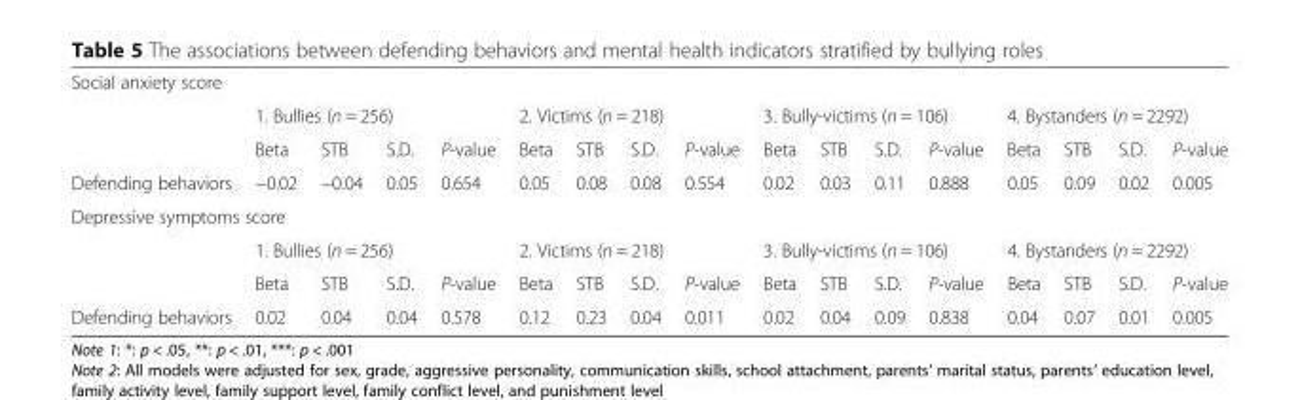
<table><tbody><tr><td colspan="17">Social anxiety score</td></tr><tr><td rowspan="2"></td><td colspan="4">1. Bullies (n = 256)</td><td colspan="4">2. Victims (n = 218)</td><td colspan="4">3. Bully-victims (n = 106)</td><td colspan="4">4. Bystanders (n = 2292)</td></tr><tr><td>Beta</td><td>STB</td><td>S.D.</td><td>P-value</td><td>Beta</td><td>STB</td><td>S.D.</td><td>P-value</td><td>Beta</td><td>STB</td><td>S.D.</td><td>P-value</td><td>Beta</td><td>STB</td><td>S.D.</td><td>P-value</td></tr><tr><td>Defending behaviors</td><td>−0.02</td><td>−0.04</td><td>0.05</td><td>0.654</td><td>0.05</td><td>0.08</td><td>0.08</td><td>0.554</td><td>0.02</td><td>0.03</td><td>0.11</td><td>0.888</td><td>0.05</td><td>0.09</td><td>0.02</td><td>0.005</td></tr><tr><td colspan="17">Depressive symptoms score</td></tr><tr><td rowspan="2"></td><td colspan="4">1. Bullies (n = 256)</td><td colspan="4">2. Victims (n = 218)</td><td colspan="4">3. Bully-victims (n = 106)</td><td colspan="4">4. Bystanders (n = 2292)</td></tr><tr><td>Beta</td><td>STB</td><td>S.D.</td><td>P-value</td><td>Beta</td><td>STB</td><td>S.D.</td><td>P-value</td><td>Beta</td><td>STB</td><td>S.D.</td><td>P-value</td><td>Beta</td><td>STB</td><td>S.D.</td><td>P-value</td></tr><tr><td>Defending behaviors</td><td>0.02</td><td>0.04</td><td>0.04</td><td>0.578</td><td>0.12</td><td>0.23</td><td>0.04</td><td>0.011</td><td>0.02</td><td>0.04</td><td>0.09</td><td>0.838</td><td>0.04</td><td>0.07</td><td>0.01</td><td>0.005</td></tr></tbody></table>